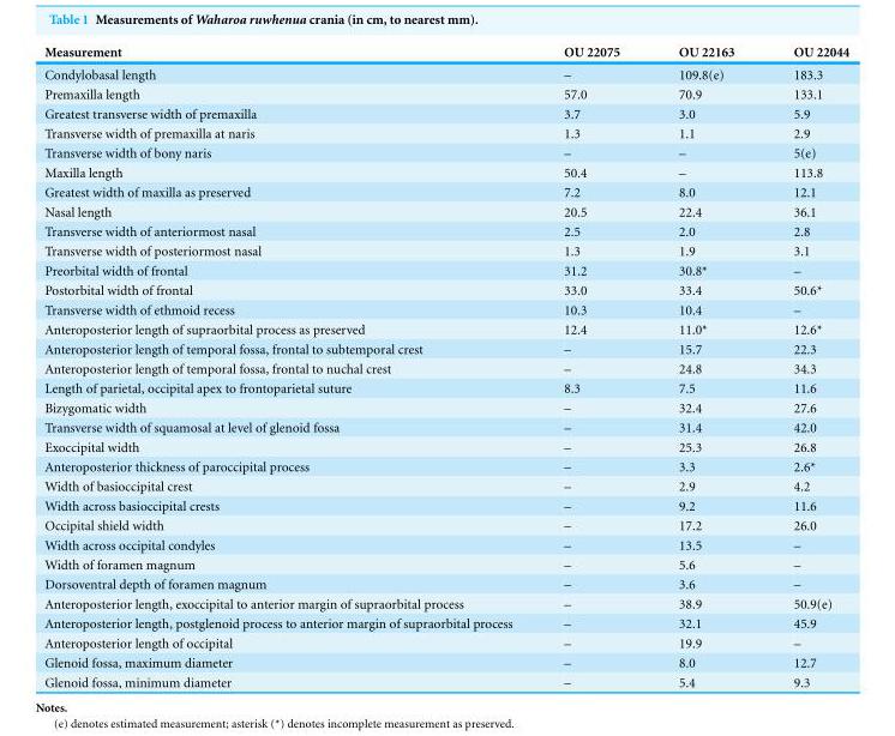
<table><thead><tr><td>Measurement</td><td>OU 22075</td><td>OU 22163</td><td>OU 22044</td></tr></thead><tbody><tr><td>Condylobasal length</td><td>–</td><td>109.8(e)</td><td>183.3</td></tr><tr><td>Premaxilla length</td><td>57.0</td><td>70.9</td><td>133.1</td></tr><tr><td>Greatest transverse width of premaxilla</td><td>3.7</td><td>3.0</td><td>5.9</td></tr><tr><td>Transverse width of premaxilla at naris</td><td>1.3</td><td>1.1</td><td>2.9</td></tr><tr><td>Transverse width of bony naris</td><td>–</td><td>–</td><td>5(e)</td></tr><tr><td>Maxilla length</td><td>50.4</td><td>–</td><td>113.8</td></tr><tr><td>Greatest width of maxilla as preserved</td><td>7.2</td><td>8.0</td><td>12.1</td></tr><tr><td>Nasal length</td><td>20.5</td><td>22.4</td><td>36.1</td></tr><tr><td>Transverse width of anteriormost nasal</td><td>2.5</td><td>2.0</td><td>2.8</td></tr><tr><td>Transverse width of posteriormost nasal</td><td>1.3</td><td>1.9</td><td>3.1</td></tr><tr><td>Preorbital width of frontal</td><td>31.2</td><td>30.8*</td><td>–</td></tr><tr><td>Postorbital width of frontal</td><td>33.0</td><td>33.4</td><td>50.6*</td></tr><tr><td>Transverse width of ethmoid recess</td><td>10.3</td><td>10.4</td><td>–</td></tr><tr><td>Anteroposterior length of supraorbital process as preserved</td><td>12.4</td><td>11.0*</td><td>12.6*</td></tr><tr><td>Anteroposterior length of temporal fossa, frontal to subtemporal crest</td><td>–</td><td>15.7</td><td>22.3</td></tr><tr><td>Anteroposterior length of temporal fossa, frontal to nuchal crest</td><td>–</td><td>24.8</td><td>34.3</td></tr><tr><td>Length of parietal, occipital apex to frontoparietal suture</td><td>8.3</td><td>7.5</td><td>11.6</td></tr><tr><td>Bizygomatic width</td><td>–</td><td>32.4</td><td>27.6</td></tr><tr><td>Transverse width of squamosal at level of glenoid fossa</td><td>–</td><td>31.4</td><td>42.0</td></tr><tr><td>Exoccipital width</td><td>–</td><td>25.3</td><td>26.8</td></tr><tr><td>Anteroposterior thickness of paroccipital process</td><td>–</td><td>3.3</td><td>2.6*</td></tr><tr><td>Width of basioccipital crest</td><td>–</td><td>2.9</td><td>4.2</td></tr><tr><td>Width across basioccipital crests</td><td>–</td><td>9.2</td><td>11.6</td></tr><tr><td>Occipital shield width</td><td>–</td><td>17.2</td><td>26.0</td></tr><tr><td>Width across occipital condyles</td><td>–</td><td>13.5</td><td>–</td></tr><tr><td>Width of foramen magnum</td><td>–</td><td>5.6</td><td>–</td></tr><tr><td>Dorsoventral depth of foramen magnum</td><td>–</td><td>3.6</td><td>–</td></tr><tr><td>Anteroposterior length, exoccipital to anterior margin of supraorbital process</td><td>–</td><td>38.9</td><td>50.9(e)</td></tr><tr><td>Anteroposterior length, postglenoid process to anterior margin of supraorbital process</td><td>–</td><td>32.1</td><td>45.9</td></tr><tr><td>Anteroposterior length of occipital</td><td>–</td><td>19.9</td><td>–</td></tr><tr><td>Glenoid fossa, maximum diameter</td><td>–</td><td>8.0</td><td>12.7</td></tr><tr><td>Glenoid fossa, minimum diameter</td><td>–</td><td>5.4</td><td>9.3</td></tr></tbody></table>